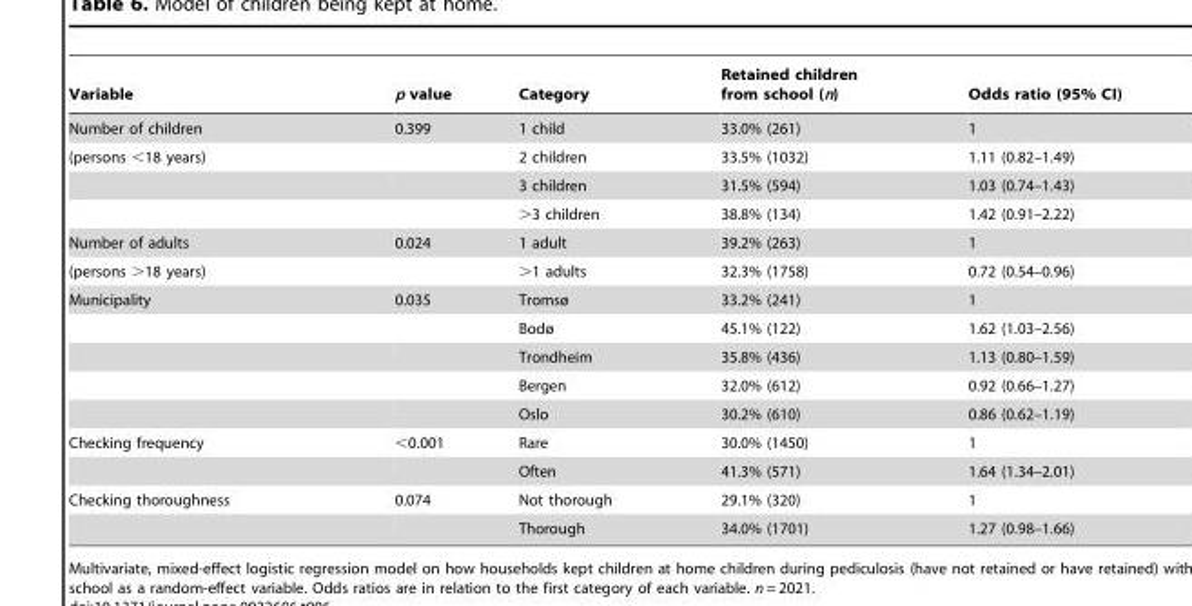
<table><thead><tr><td>Variable</td><td>p value</td><td>Category</td><td>Retained children from school (n)</td><td>Odds ratio (95% CI)</td></tr></thead><tbody><tr><td>Number of children</td><td>0.399</td><td>1 child</td><td>33.0% (261)</td><td>1</td></tr><tr><td rowspan="3">(persons &lt;18 years)</td><td></td><td>2 children</td><td>33.5% (1032)</td><td>1.11 (0.82–1.49)</td></tr><tr><td></td><td>3 children</td><td>31.5% (594)</td><td>1.03 (0.74–1.43)</td></tr><tr><td></td><td>&gt;3 children</td><td>38.8% (134)</td><td>1.42 (0.91–2.22)</td></tr><tr><td>Number of adults</td><td>0.024</td><td>1 adult</td><td>39.2% (263)</td><td>1</td></tr><tr><td>(persons &gt;18 years)</td><td></td><td>&gt;1 adults</td><td>32.3% (1758)</td><td>0.72 (0.54–0.96)</td></tr><tr><td rowspan="5">Municipality</td><td>0.035</td><td>Tromsø</td><td>33.2% (241)</td><td>1</td></tr><tr><td></td><td>Bodø</td><td>45.1% (122)</td><td>1.62 (1.03–2.56)</td></tr><tr><td></td><td>Trondheim</td><td>35.8% (436)</td><td>1.13 (0.80–1.59)</td></tr><tr><td></td><td>Bergen</td><td>32.0% (612)</td><td>0.92 (0.66–1.27)</td></tr><tr><td></td><td>Oslo</td><td>30.2% (610)</td><td>0.86 (0.62–1.19)</td></tr><tr><td rowspan="2">Checking frequency</td><td>&lt;0.001</td><td>Rare</td><td>30.0% (1450)</td><td>1</td></tr><tr><td></td><td>Often</td><td>41.3% (571)</td><td>1.64 (1.34–2.01)</td></tr><tr><td rowspan="2">Checking thoroughness</td><td>0.074</td><td>Not thorough</td><td>29.1% (320)</td><td>1</td></tr><tr><td></td><td>Thorough</td><td>34.0% (1701)</td><td>1.27 (0.98–1.66)</td></tr></tbody></table>